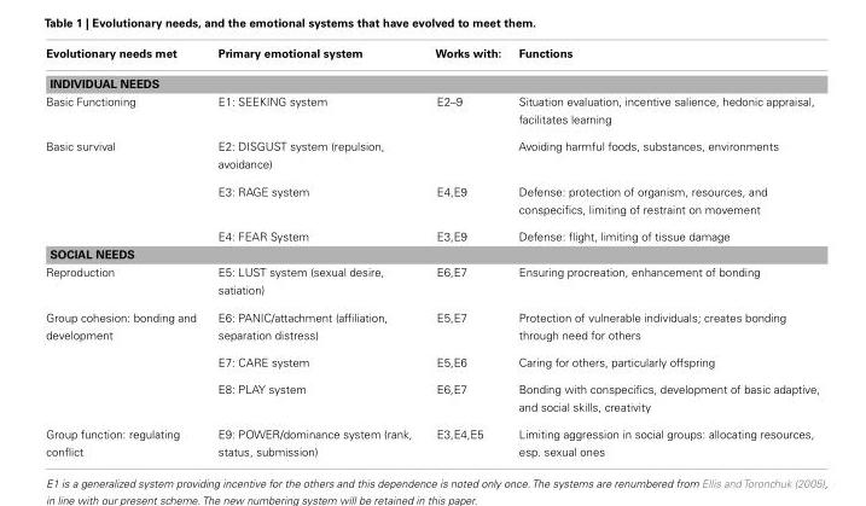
<table><thead><tr><td>Evolutionary needs met</td><td>Primary emotional system</td><td>Works with:</td><td>Functions</td></tr></thead><tbody><tr><td colspan="4">INDIVIDUAL NEEDS</td></tr><tr><td>Basic Functioning</td><td>E1: SEEKING system</td><td>E2–9</td><td>Situation evaluation, incentive salience, hedonic appraisal, facilitates learning</td></tr><tr><td rowspan="3">Basic survival</td><td>E2: DISGUST system (repulsion, avoidance)</td><td></td><td>Avoiding harmful foods, substances, environments</td></tr><tr><td>E3: RAGE system</td><td>E4,E9</td><td>Defense: protection of organism, resources, and conspecifics, limiting of restraint on movement</td></tr><tr><td>E4: FEAR System</td><td>E3,E9</td><td>Defense: flight, limiting of tissue damage</td></tr><tr><td colspan="4">SOCIAL NEEDS</td></tr><tr><td>Reproduction</td><td>E5: LUST system (sexual desire, satiation)</td><td>E6,E7</td><td>Ensuring procreation, enhancement of bonding</td></tr><tr><td rowspan="3">Group cohesion: bonding and development</td><td>E6: PANIC/attachment (affiliation, separation distress)</td><td>E5,E7</td><td>Protection of vulnerable individuals; creates bonding through need for others</td></tr><tr><td>E7: CARE system</td><td>E5,E6</td><td>Caring for others, particularly offspring</td></tr><tr><td>E8: PLAY system</td><td>E6,E7</td><td>Bonding with conspecifics, development of basic adaptive, and social skills, creativity</td></tr><tr><td>Group function: regulating conflict</td><td>E9: POWER/dominance system (rank, status, submission)</td><td>E3,E4,E5</td><td>Limiting aggression in social groups: allocating resources, esp. sexual ones</td></tr></tbody></table>